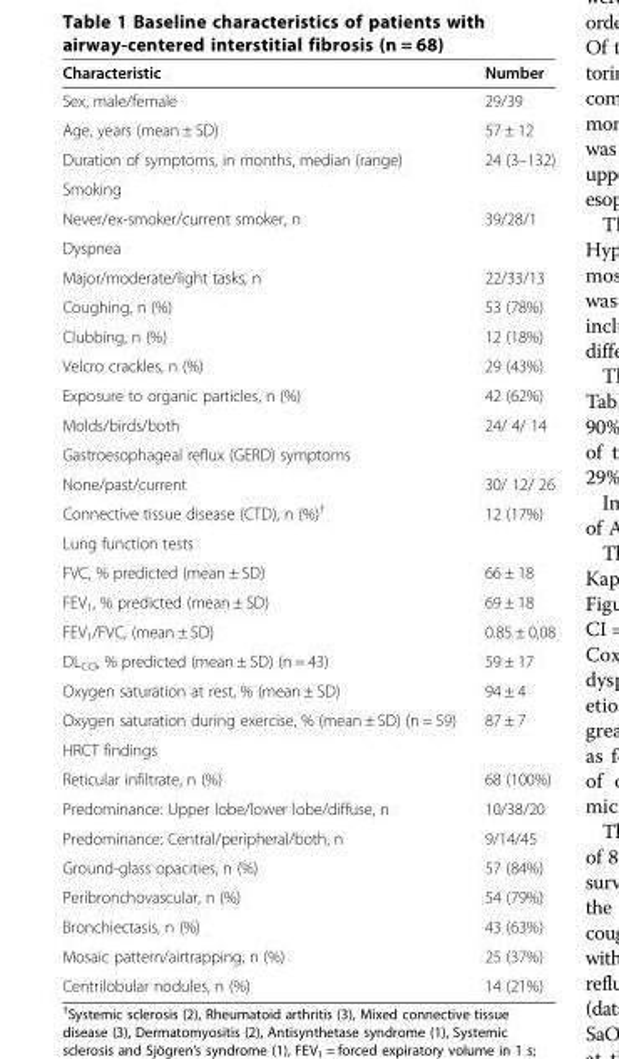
<table><thead><tr><td>Characteristic</td><td>Number</td></tr></thead><tbody><tr><td>Sex, male/female</td><td>29/39</td></tr><tr><td>Age, years (mean ± SD)</td><td>57 ± 12</td></tr><tr><td>Duration of symptoms, in months, median (range)</td><td>24 (3–132)</td></tr><tr><td colspan="2">Smoking</td></tr><tr><td>Never/ex-smoker/current smoker, n</td><td>39/28/1</td></tr><tr><td colspan="2">Dyspnea</td></tr><tr><td>Major/moderate/light tasks, n</td><td>22/33/13</td></tr><tr><td>Coughing, n (%)</td><td>53 (78%)</td></tr><tr><td>Clubbing, n (%)</td><td>12 (18%)</td></tr><tr><td>Velcro crackles, n (%)</td><td>29 (43%)</td></tr><tr><td>Exposure to organic particles, n (%)</td><td>42 (62%)</td></tr><tr><td>Molds/birds/both</td><td>24/ 4/ 14</td></tr><tr><td colspan="2">Gastroesophageal reflux (GERD) symptoms</td></tr><tr><td>None/past/current</td><td>30/ 12/ 26</td></tr><tr><td>Connective tissue disease (CTD), n (%)<sup>†</sup></td><td>12 (17%)</td></tr><tr><td colspan="2">Lung function tests</td></tr><tr><td>FVC, % predicted (mean ± SD)</td><td>66 ± 18</td></tr><tr><td>FEV<sub>1</sub>, % predicted (mean ± SD)</td><td>69 ± 18</td></tr><tr><td>FEV<sub>1</sub>/FVC, (mean ± SD)</td><td>0.85 ± 0,08</td></tr><tr><td>DL<sub>CO</sub>, % predicted (mean ± SD) (n = 43)</td><td>59 ± 17</td></tr><tr><td>Oxygen saturation at rest, % (mean ± SD)</td><td>94 ± 4</td></tr><tr><td>Oxygen saturation during exercise, % (mean ± SD) (n = 59)</td><td>87 ± 7</td></tr><tr><td colspan="2">HRCT findings</td></tr><tr><td>Reticular infiltrate, n (%)</td><td>68 (100%)</td></tr><tr><td>Predominance: Upper lobe/lower lobe/diffuse, n</td><td>10/38/20</td></tr><tr><td>Predominance: Central/peripheral/both, n</td><td>9/14/45</td></tr><tr><td>Ground-glass opacities, n (%)</td><td>57 (84%)</td></tr><tr><td>Peribronchovascular, n (%)</td><td>54 (79%)</td></tr><tr><td>Bronchiectasis, n (%)</td><td>43 (63%)</td></tr><tr><td>Mosaic pattern/airtrapping, n (%)</td><td>25 (37%)</td></tr><tr><td>Centrilobular nodules, n (%)</td><td>14 (21%)</td></tr></tbody></table>